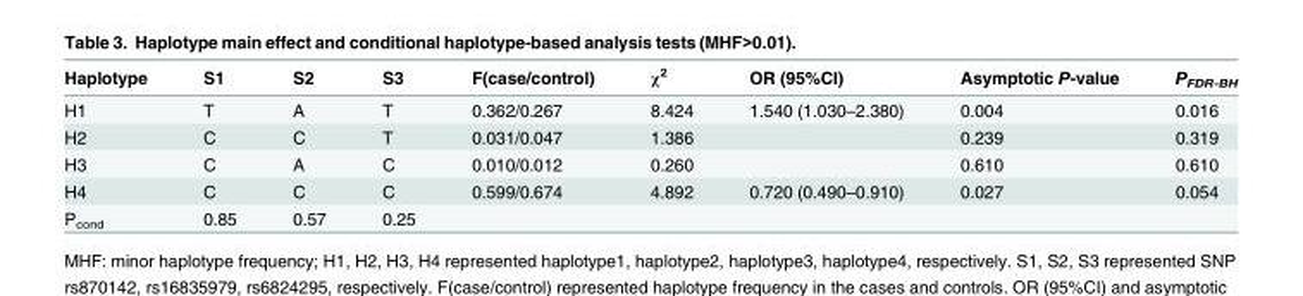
<table><thead><tr><td>Haplotype</td><td>S1</td><td>S2</td><td>S3</td><td>F(case/control)</td><td>χ<sup>2</sup></td><td>OR (95%CI)</td><td>Asymptotic P-value</td><td>P<sub>FDR-BH</sub></td></tr></thead><tbody><tr><td>H1</td><td>T</td><td>A</td><td>T</td><td>0.362/0.267</td><td>8.424</td><td>1.540 (1.030–2.380)</td><td>0.004</td><td>0.016</td></tr><tr><td>H2</td><td>C</td><td>C</td><td>T</td><td>0.031/0.047</td><td>1.386</td><td></td><td>0.239</td><td>0.319</td></tr><tr><td>H3</td><td>C</td><td>A</td><td>C</td><td>0.010/0.012</td><td>0.260</td><td></td><td>0.610</td><td>0.610</td></tr><tr><td>H4</td><td>C</td><td>C</td><td>C</td><td>0.599/0.674</td><td>4.892</td><td>0.720 (0.490–0.910)</td><td>0.027</td><td>0.054</td></tr><tr><td>P<sub>cond</sub></td><td>0.85</td><td>0.57</td><td>0.25</td><td></td><td></td><td></td><td></td><td></td></tr></tbody></table>